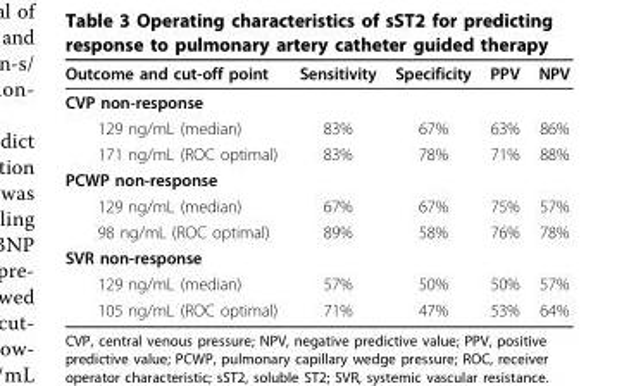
<table><thead><tr><td>Outcome and cut-off point</td><td>Sensitivity</td><td>Specificity</td><td>PPV</td><td>NPV</td></tr></thead><tbody><tr><td colspan="5">CVP non-response</td></tr><tr><td>129 ng/mL (median)</td><td>83%</td><td>67%</td><td>63%</td><td>86%</td></tr><tr><td>171 ng/mL (ROC optimal)</td><td>83%</td><td>78%</td><td>71%</td><td>88%</td></tr><tr><td colspan="5">PCWP non-response</td></tr><tr><td>129 ng/mL (median)</td><td>67%</td><td>67%</td><td>75%</td><td>57%</td></tr><tr><td>98 ng/mL (ROC optimal)</td><td>89%</td><td>58%</td><td>76%</td><td>78%</td></tr><tr><td colspan="5">SVR non-response</td></tr><tr><td>129 ng/mL (median)</td><td>57%</td><td>50%</td><td>50%</td><td>57%</td></tr><tr><td>105 ng/mL (ROC optimal)</td><td>71%</td><td>47%</td><td>53%</td><td>64%</td></tr></tbody></table>